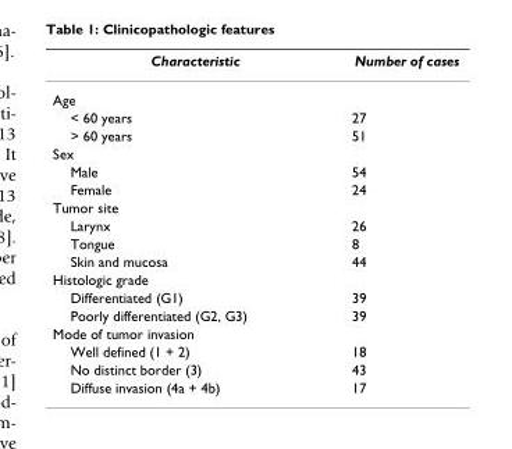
<table><thead><tr><td>Characteristic</td><td>Number of cases</td></tr></thead><tbody><tr><td colspan="2">Age</td></tr><tr><td>&lt; 60 years</td><td>27</td></tr><tr><td>&gt; 60 years</td><td>51</td></tr><tr><td colspan="2">Sex</td></tr><tr><td>Male</td><td>54</td></tr><tr><td>Female</td><td>24</td></tr><tr><td colspan="2">Tumor site</td></tr><tr><td>Larynx</td><td>26</td></tr><tr><td>Tongue</td><td>8</td></tr><tr><td>Skin and mucosa</td><td>44</td></tr><tr><td colspan="2">Histologic grade</td></tr><tr><td>Differentiated (G1)</td><td>39</td></tr><tr><td>Poorly differentiated (G2, G3)</td><td>39</td></tr><tr><td colspan="2">Mode of tumor invasion</td></tr><tr><td>Well defined (1 + 2)</td><td>18</td></tr><tr><td>No distinct border (3)</td><td>43</td></tr><tr><td>Diffuse invasion (4a + 4b)</td><td>17</td></tr></tbody></table>